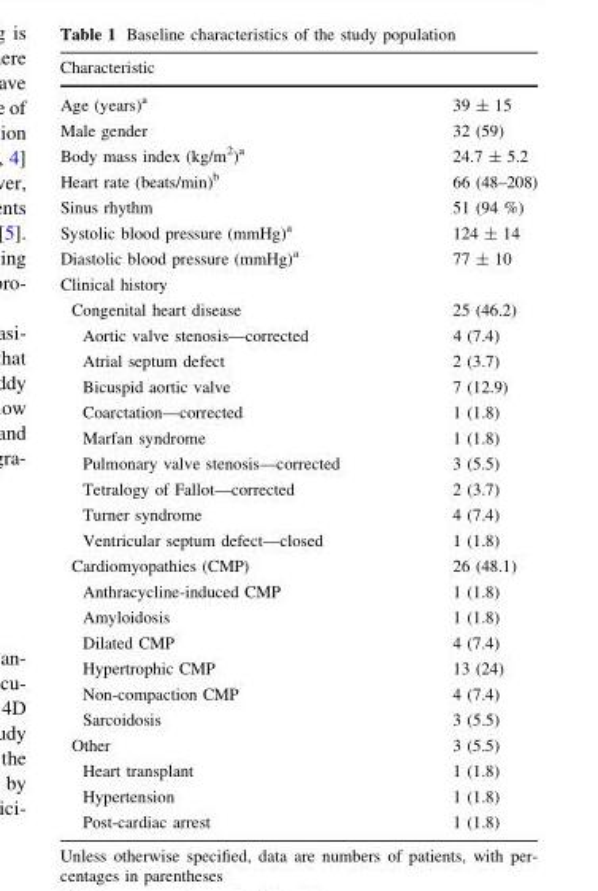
<table><thead><tr><td>Characteristic</td><td></td></tr></thead><tbody><tr><td>Age (years)<sup>a</sup></td><td>39 ± 15</td></tr><tr><td>Male gender</td><td>32 (59)</td></tr><tr><td>Body mass index (kg/m<sup>2</sup>)<sup>a</sup></td><td>24.7 ± 5.2</td></tr><tr><td>Heart rate (beats/min)<sup>b</sup></td><td>66 (48–208)</td></tr><tr><td>Sinus rhythm</td><td>51 (94 %)</td></tr><tr><td>Systolic blood pressure (mmHg)<sup>a</sup></td><td>124 ± 14</td></tr><tr><td>Diastolic blood pressure (mmHg)<sup>a</sup></td><td>77 ± 10</td></tr><tr><td colspan="2">Clinical history</td></tr><tr><td>Congenital heart disease</td><td>25 (46.2)</td></tr><tr><td>Aortic valve stenosis—corrected</td><td>4 (7.4)</td></tr><tr><td>Atrial septum defect</td><td>2 (3.7)</td></tr><tr><td>Bicuspid aortic valve</td><td>7 (12.9)</td></tr><tr><td>Coarctation—corrected</td><td>1 (1.8)</td></tr><tr><td>Marfan syndrome</td><td>1 (1.8)</td></tr><tr><td>Pulmonary valve stenosis—corrected</td><td>3 (5.5)</td></tr><tr><td>Tetralogy of Fallot—corrected</td><td>2 (3.7)</td></tr><tr><td>Turner syndrome</td><td>4 (7.4)</td></tr><tr><td>Ventricular septum defect—closed</td><td>1 (1.8)</td></tr><tr><td>Cardiomyopathies (CMP)</td><td>26 (48.1)</td></tr><tr><td>Anthracycline-induced CMP</td><td>1 (1.8)</td></tr><tr><td>Amyloidosis</td><td>1 (1.8)</td></tr><tr><td>Dilated CMP</td><td>4 (7.4)</td></tr><tr><td>Hypertrophic CMP</td><td>13 (24)</td></tr><tr><td>Non-compaction CMP</td><td>4 (7.4)</td></tr><tr><td>Sarcoidosis</td><td>3 (5.5)</td></tr><tr><td>Other</td><td>3 (5.5)</td></tr><tr><td>Heart transplant</td><td>1 (1.8)</td></tr><tr><td>Hypertension</td><td>1 (1.8)</td></tr><tr><td>Post-cardiac arrest</td><td>1 (1.8)</td></tr></tbody></table>